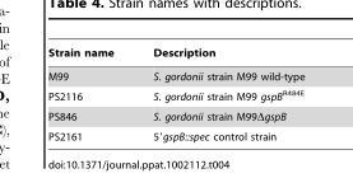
<table><thead><tr><td>Strain name</td><td>Description</td></tr></thead><tbody><tr><td>M99</td><td>S. gordonii strain M99 wild-type</td></tr><tr><td>PS2116</td><td>S. gordonii strain M99 gspB<sup>R484E</sup></td></tr><tr><td>PS846</td><td>S. gordonii strain M99ΔgspB</td></tr><tr><td>PS2161</td><td>5′gspB::spec control strain</td></tr></tbody></table>